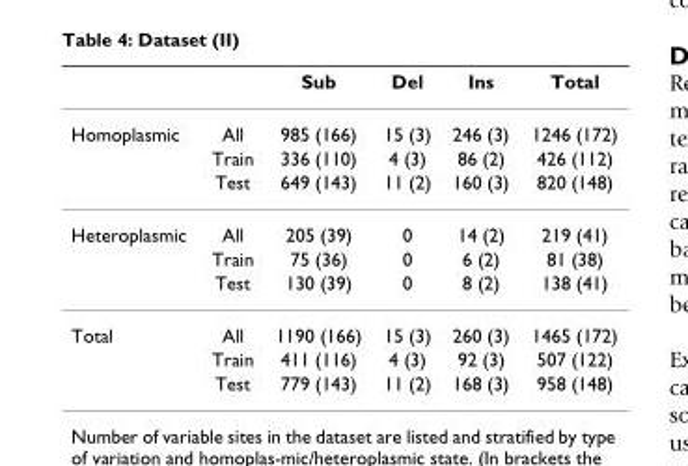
<table><thead><tr><td></td><td></td><td>Sub</td><td>Del</td><td>Ins</td><td>Total</td></tr></thead><tbody><tr><td rowspan="3">Homoplasmic</td><td>All</td><td>985 (166)</td><td>15 (3)</td><td>246 (3)</td><td>1246 (172)</td></tr><tr><td>Train</td><td>336 (110)</td><td>4 (3)</td><td>86 (2)</td><td>426 (112)</td></tr><tr><td>Test</td><td>649 (143)</td><td>11 (2)</td><td>160 (3)</td><td>820 (148)</td></tr><tr><td rowspan="3">Heteroplasmic</td><td>All</td><td>205 (39)</td><td>0</td><td>14 (2)</td><td>219 (41)</td></tr><tr><td>Train</td><td>75 (36)</td><td>0</td><td>6 (2)</td><td>81 (38)</td></tr><tr><td>Test</td><td>130 (39)</td><td>0</td><td>8 (2)</td><td>138 (41)</td></tr><tr><td rowspan="3">Total</td><td>All</td><td>1190 (166)</td><td>15 (3)</td><td>260 (3)</td><td>1465 (172)</td></tr><tr><td>Train</td><td>411 (116)</td><td>4 (3)</td><td>92 (3)</td><td>507 (122)</td></tr><tr><td>Test</td><td>779 (143)</td><td>11 (2)</td><td>168 (3)</td><td>958 (148)</td></tr></tbody></table>